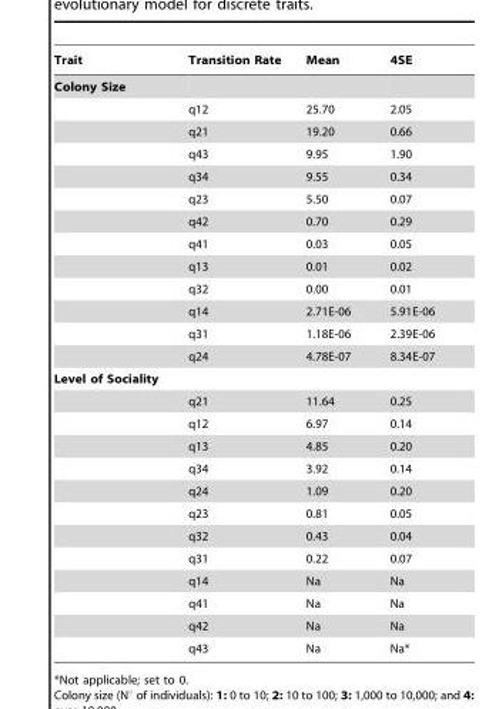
<table><thead><tr><td>Trait</td><td>Transition Rate</td><td>Mean</td><td>4SE</td></tr></thead><tbody><tr><td colspan="4">Colony Size</td></tr><tr><td></td><td>q12</td><td>25.70</td><td>2.05</td></tr><tr><td></td><td>q21</td><td>19.20</td><td>0.66</td></tr><tr><td></td><td>q43</td><td>9.95</td><td>1.90</td></tr><tr><td></td><td>q34</td><td>9.55</td><td>0.34</td></tr><tr><td></td><td>q23</td><td>5.50</td><td>0.07</td></tr><tr><td></td><td>q42</td><td>0.70</td><td>0.29</td></tr><tr><td></td><td>q41</td><td>0.03</td><td>0.05</td></tr><tr><td></td><td>q13</td><td>0.01</td><td>0.02</td></tr><tr><td></td><td>q32</td><td>0.00</td><td>0.01</td></tr><tr><td></td><td>q14</td><td>2.71E-06</td><td>5.91E-06</td></tr><tr><td></td><td>q31</td><td>1.18E-06</td><td>2.39E-06</td></tr><tr><td></td><td>q24</td><td>4.78E-07</td><td>8.34E-07</td></tr><tr><td colspan="4">Level of Sociality</td></tr><tr><td></td><td>q21</td><td>11.64</td><td>0.25</td></tr><tr><td></td><td>q12</td><td>6.97</td><td>0.14</td></tr><tr><td></td><td>q13</td><td>4.85</td><td>0.20</td></tr><tr><td></td><td>q34</td><td>3.92</td><td>0.14</td></tr><tr><td></td><td>q24</td><td>1.09</td><td>0.20</td></tr><tr><td></td><td>q23</td><td>0.81</td><td>0.05</td></tr><tr><td></td><td>q32</td><td>0.43</td><td>0.04</td></tr><tr><td></td><td>q31</td><td>0.22</td><td>0.07</td></tr><tr><td></td><td>q14</td><td>Na</td><td>Na</td></tr><tr><td></td><td>q41</td><td>Na</td><td>Na</td></tr><tr><td></td><td>q42</td><td>Na</td><td>Na</td></tr><tr><td></td><td>q43</td><td>Na</td><td>Na*</td></tr></tbody></table>